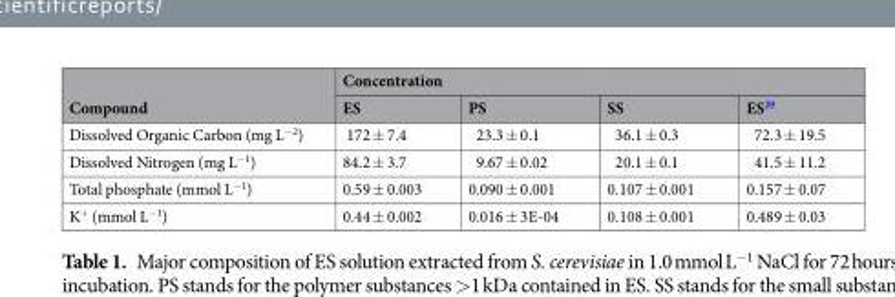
<table><thead><tr><td rowspan="2">Compound</td><td colspan="4">Concentration</td></tr><tr><td>ES</td><td>PS</td><td>SS</td><td>ES<sup>29</sup></td></tr></thead><tbody><tr><td>Dissolved Organic Carbon (mg L<sup>−2</sup>)</td><td>172 ± 7.4</td><td>23.3 ± 0.1</td><td>36.1 ± 0.3</td><td>72.3 ± 19.5</td></tr><tr><td>Dissolved Nitrogen (mg L<sup>−1</sup>)</td><td>84.2 ± 3.7</td><td>9.67 ± 0.02</td><td>20.1 ± 0.1</td><td>41.5 ± 11.2</td></tr><tr><td>Total phosphate (mmol L<sup>−1</sup>)</td><td>0.59 ± 0.003</td><td>0.090 ± 0.001</td><td>0.107 ± 0.001</td><td>0.157 ± 0.07</td></tr><tr><td>K<sup>+</sup> (mmol L<sup>−1</sup>)</td><td>0.44 ± 0.002</td><td>0.016 ± 3E-04</td><td>0.108 ± 0.001</td><td>0.489 ± 0.03</td></tr></tbody></table>